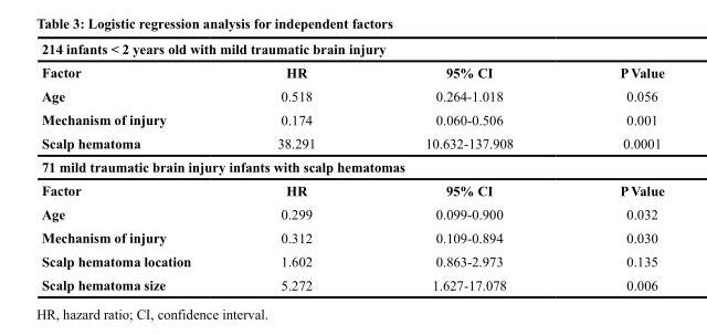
<table><thead><tr><td colspan="4">214 infants &lt; 2 years old with mild traumatic brain injury</td></tr><tr><td>Factor</td><td>HR</td><td>95% CI</td><td>P Value</td></tr></thead><tbody><tr><td>Age</td><td>0.518</td><td>0.264-1.018</td><td>0.056</td></tr><tr><td>Mechanism of injury</td><td>0.174</td><td>0.060-0.506</td><td>0.001</td></tr><tr><td>Scalp hematoma</td><td>38.291</td><td>10.632-137.908</td><td>0.0001</td></tr><tr><td colspan="4">71 mild traumatic brain injury infants with scalp hematomas</td></tr><tr><td>Factor</td><td>HR</td><td>95% CI</td><td>P Value</td></tr><tr><td>Age</td><td>0.299</td><td>0.099-0.900</td><td>0.032</td></tr><tr><td>Mechanism of injury</td><td>0.312</td><td>0.109-0.894</td><td>0.030</td></tr><tr><td>Scalp hematoma location</td><td>1.602</td><td>0.863-2.973</td><td>0.135</td></tr><tr><td>Scalp hematoma size</td><td>5.272</td><td>1.627-17.078</td><td>0.006</td></tr></tbody></table>